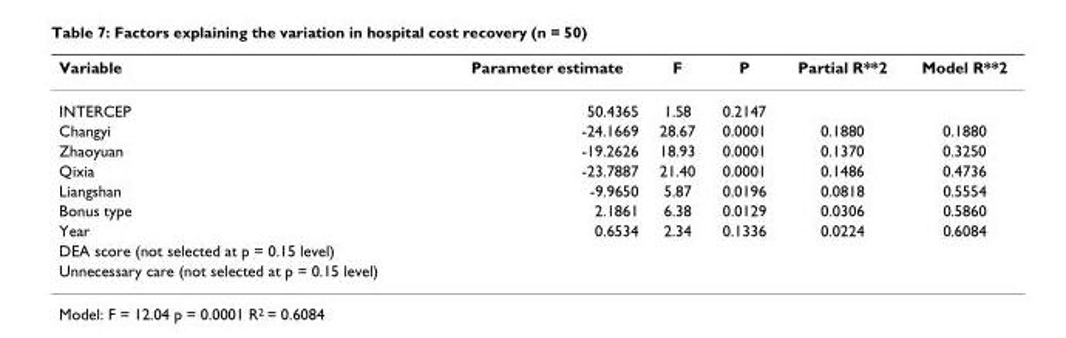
<table><thead><tr><td>Variable</td><td>Parameter estimate</td><td>F</td><td>P</td><td>Partial R**2</td><td>Model R**2</td></tr></thead><tbody><tr><td>INTERCEP</td><td>50.4365</td><td>1.58</td><td>0.2147</td><td></td><td></td></tr><tr><td>Changyi</td><td>-24.1669</td><td>28.67</td><td>0.0001</td><td>0.1880</td><td>0.1880</td></tr><tr><td>Zhaoyuan</td><td>-19.2626</td><td>18.93</td><td>0.0001</td><td>0.1370</td><td>0.3250</td></tr><tr><td>Qixia</td><td>-23.7887</td><td>21.40</td><td>0.0001</td><td>0.1486</td><td>0.4736</td></tr><tr><td>Liangshan</td><td>-9.9650</td><td>5.87</td><td>0.0196</td><td>0.0818</td><td>0.5554</td></tr><tr><td>Bonus type</td><td>2.1861</td><td>6.38</td><td>0.0129</td><td>0.0306</td><td>0.5860</td></tr><tr><td>Year</td><td>0.6534</td><td>2.34</td><td>0.1336</td><td>0.0224</td><td>0.6084</td></tr><tr><td colspan="6">DEA score (not selected at p = 0.15 level)</td></tr><tr><td>Unnecessary care (not selected at p = 0.15 level)</td><td></td><td></td><td></td><td></td><td></td></tr></tbody></table>